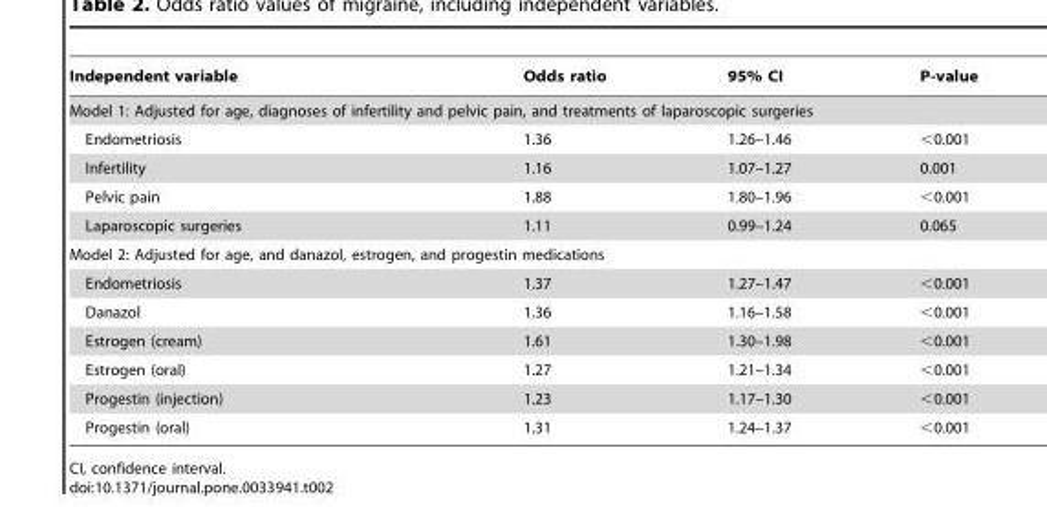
<table><thead><tr><td>Independent variable</td><td>Odds ratio</td><td>95% CI</td><td>P-value</td></tr></thead><tbody><tr><td colspan="4">Model 1: Adjusted for age, diagnoses of infertility and pelvic pain, and treatments of laparoscopic surgeries</td></tr><tr><td>Endometriosis</td><td>1.36</td><td>1.26–1.46</td><td>&lt;0.001</td></tr><tr><td>Infertility</td><td>1.16</td><td>1.07–1.27</td><td>0.001</td></tr><tr><td>Pelvic pain</td><td>1.88</td><td>1.80–1.96</td><td>&lt;0.001</td></tr><tr><td>Laparoscopic surgeries</td><td>1.11</td><td>0.99–1.24</td><td>0.065</td></tr><tr><td colspan="4">Model 2: Adjusted for age, and danazol, estrogen, and progestin medications</td></tr><tr><td>Endometriosis</td><td>1.37</td><td>1.27–1.47</td><td>&lt;0.001</td></tr><tr><td>Danazol</td><td>1.36</td><td>1.16–1.58</td><td>&lt;0.001</td></tr><tr><td>Estrogen (cream)</td><td>1.61</td><td>1.30–1.98</td><td>&lt;0.001</td></tr><tr><td>Estrogen (oral)</td><td>1.27</td><td>1.21–1.34</td><td>&lt;0.001</td></tr><tr><td>Progestin (injection)</td><td>1.23</td><td>1.17–1.30</td><td>&lt;0.001</td></tr><tr><td>Progestin (oral)</td><td>1.31</td><td>1.24–1.37</td><td>&lt;0.001</td></tr></tbody></table>